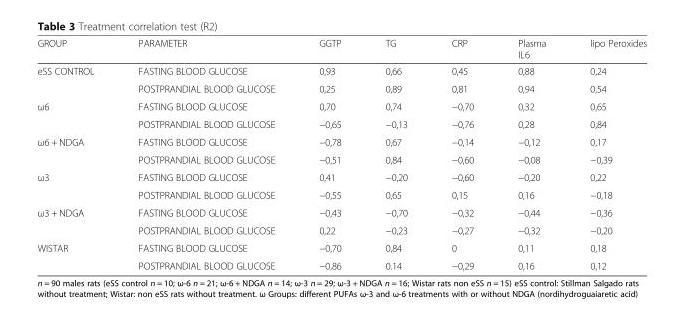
<table><thead><tr><td>GROUP</td><td>PARAMETER</td><td>GGTP</td><td>TG</td><td>CRP</td><td>Plasma IL6</td><td>lipo Peroxides</td></tr></thead><tbody><tr><td rowspan="2">eSS CONTROL</td><td>FASTING BLOOD GLUCOSE</td><td>0,93</td><td>0,66</td><td>0,45</td><td>0,88</td><td>0,24</td></tr><tr><td>POSTPRANDIAL BLOOD GLUCOSE</td><td>0,25</td><td>0,89</td><td>0,81</td><td>0,94</td><td>0,54</td></tr><tr><td rowspan="2">ω6</td><td>FASTING BLOOD GLUCOSE</td><td>0,70</td><td>0,74</td><td>−0,70</td><td>0,32</td><td>0,65</td></tr><tr><td>POSTPRANDIAL BLOOD GLUCOSE</td><td>−0,65</td><td>−0,13</td><td>−0,76</td><td>0,28</td><td>0,84</td></tr><tr><td rowspan="2">ω6 + NDGA</td><td>FASTING BLOOD GLUCOSE</td><td>−0,78</td><td>0,67</td><td>−0,14</td><td>−0,12</td><td>0,17</td></tr><tr><td>POSTPRANDIAL BLOOD GLUCOSE</td><td>−0,51</td><td>0,84</td><td>−0,60</td><td>−0,08</td><td>−0,39</td></tr><tr><td rowspan="2">ω3</td><td>FASTING BLOOD GLUCOSE</td><td>0,41</td><td>−0,20</td><td>−0,60</td><td>−0,20</td><td>0,22</td></tr><tr><td>POSTPRANDIAL BLOOD GLUCOSE</td><td>−0,55</td><td>0,65</td><td>0,15</td><td>0,16</td><td>−0,18</td></tr><tr><td rowspan="2">ω3 + NDGA</td><td>FASTING BLOOD GLUCOSE</td><td>−0,43</td><td>−0,70</td><td>−0,32</td><td>−0,44</td><td>−0,36</td></tr><tr><td>POSTPRANDIAL BLOOD GLUCOSE</td><td>0,22</td><td>−0,23</td><td>−0,27</td><td>−0,32</td><td>−0,20</td></tr><tr><td rowspan="2">WISTAR</td><td>FASTING BLOOD GLUCOSE</td><td>−0,70</td><td>0,84</td><td>0</td><td>0,11</td><td>0,18</td></tr><tr><td>POSTPRANDIAL BLOOD GLUCOSE</td><td>−0,86</td><td>0.14</td><td>−0,29</td><td>0,16</td><td>0,12</td></tr></tbody></table>